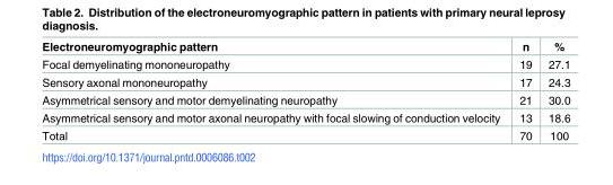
<table><thead><tr><td>Electroneuromyographic pattern</td><td>n</td><td>%</td></tr></thead><tbody><tr><td>Focal demyelinating mononeuropathy</td><td>19</td><td>27.1</td></tr><tr><td>Sensory axonal mononeuropathy</td><td>17</td><td>24.3</td></tr><tr><td>Asymmetrical sensory and motor demyelinating neuropathy</td><td>21</td><td>30.0</td></tr><tr><td>Asymmetrical sensory and motor axonal neuropathy with focal slowing of conduction velocity</td><td>13</td><td>18.6</td></tr><tr><td>Total</td><td>70</td><td>100</td></tr></tbody></table>